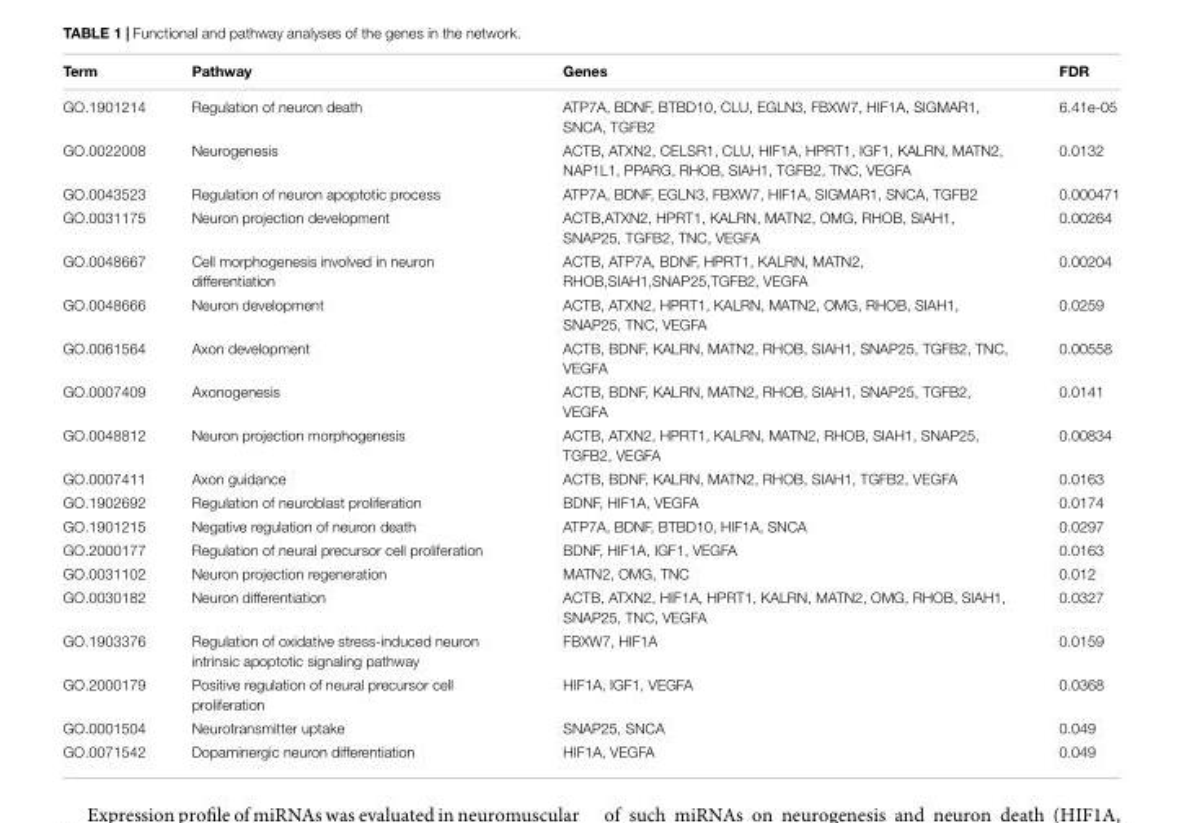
<table><thead><tr><td>Term</td><td>Pathway</td><td>Genes</td><td>FDR</td></tr></thead><tbody><tr><td>GO.1901214</td><td>Regulation of neuron death</td><td>ATP7A, BDNF, BTBD10, CLU, EGLN3, FBXW7, HIF1A, SIGMAR1, SNCA, TGFB2</td><td>6.41e-05</td></tr><tr><td>GO.0022008</td><td>Neurogenesis</td><td>ACTB, ATXN2, CELSR1, CLU, HIF1A, HPRT1, IGF1, KALRN, MATN2, NAP1L1, PPARG, RHOB, SIAH1, TGFB2, TNC, VEGFA</td><td>0.0132</td></tr><tr><td>GO.0043523</td><td>Regulation of neuron apoptotic process</td><td>ATP7A, BDNF, EGLN3, FBXW7, HIF1A, SIGMAR1, SNCA, TGFB2</td><td>0.000471</td></tr><tr><td>GO.0031175</td><td>Neuron projection development</td><td>ACTB,ATXN2, HPRT1, KALRN, MATN2, OMG, RHOB, SIAH1, SNAP25, TGFB2, TNC, VEGFA</td><td>0.00264</td></tr><tr><td>GO.0048667</td><td>Cell morphogenesis involved in neuron differentiation</td><td>ACTB, ATP7A, BDNF, HPRT1, KALRN, MATN2, RHOB,SIAH1,SNAP25,TGFB2, VEGFA</td><td>0.00204</td></tr><tr><td>GO.0048666</td><td>Neuron development</td><td>ACTB, ATXN2, HPRT1, KALRN, MATN2, OMG, RHOB, SIAH1, SNAP25, TNC, VEGFA</td><td>0.0259</td></tr><tr><td>GO.0061564</td><td>Axon development</td><td>ACTB, BDNF, KALRN, MATN2, RHOB, SIAH1, SNAP25, TGFB2, TNC, VEGFA</td><td>0.00558</td></tr><tr><td>GO.0007409</td><td>Axonogenesis</td><td>ACTB, BDNF, KALRN, MATN2, RHOB, SIAH1, SNAP25, TGFB2, VEGFA</td><td>0.0141</td></tr><tr><td>GO.0048812</td><td>Neuron projection morphogenesis</td><td>ACTB, ATXN2, HPRT1, KALRN, MATN2, RHOB, SIAH1, SNAP25, TGFB2, VEGFA</td><td>0.00834</td></tr><tr><td>GO.0007411</td><td>Axon guidance</td><td>ACTB, BDNF, KALRN, MATN2, RHOB, SIAH1, TGFB2, VEGFA</td><td>0.0163</td></tr><tr><td>GO.1902692</td><td>Regulation of neuroblast proliferation</td><td>BDNF, HIF1A, VEGFA</td><td>0.0174</td></tr><tr><td>GO.1901215</td><td>Negative regulation of neuron death</td><td>ATP7A, BDNF, BTBD10, HIF1A, SNCA</td><td>0.0297</td></tr><tr><td>GO.2000177</td><td>Regulation of neural precursor cell proliferation</td><td>BDNF, HIF1A, IGF1, VEGFA</td><td>0.0163</td></tr><tr><td>GO.0031102</td><td>Neuron projection regeneration</td><td>MATN2, OMG, TNC</td><td>0.012</td></tr><tr><td>GO.0030182</td><td>Neuron differentiation</td><td>ACTB, ATXN2, HIF1A, HPRT1, KALRN, MATN2, OMG, RHOB, SIAH1, SNAP25, TNC, VEGFA</td><td>0.0327</td></tr><tr><td>GO.1903376</td><td>Regulation of oxidative stress-induced neuron intrinsic apoptotic signaling pathway</td><td>FBXW7, HIF1A</td><td>0.0159</td></tr><tr><td>GO.2000179</td><td>Positive regulation of neural precursor cell proliferation</td><td>HIF1A, IGF1, VEGFA</td><td>0.0368</td></tr><tr><td>GO.0001504</td><td>Neurotransmitter uptake</td><td>SNAP25, SNCA</td><td>0.049</td></tr><tr><td>GO.0071542</td><td>Dopaminergic neuron differentiation</td><td>HIF1A, VEGFA</td><td>0.049</td></tr></tbody></table>